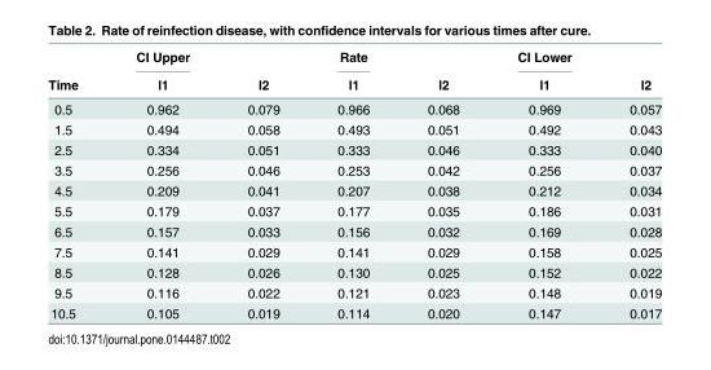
<table><thead><tr><td rowspan="2">Time</td><td rowspan="2">CI Upper l1</td><td rowspan="2">l2</td><td rowspan="2">Rate l1</td><td rowspan="2">l2</td><td rowspan="2">CI Lower l1</td><td rowspan="2">l2</td></tr><tr></tr></thead><tbody><tr><td>0.5</td><td>0.962</td><td>0.079</td><td>0.966</td><td>0.068</td><td>0.969</td><td>0.057</td></tr><tr><td>1.5</td><td>0.494</td><td>0.058</td><td>0.493</td><td>0.051</td><td>0.492</td><td>0.043</td></tr><tr><td>2.5</td><td>0.334</td><td>0.051</td><td>0.333</td><td>0.046</td><td>0.333</td><td>0.040</td></tr><tr><td>3.5</td><td>0.256</td><td>0.046</td><td>0.253</td><td>0.042</td><td>0.256</td><td>0.037</td></tr><tr><td>4.5</td><td>0.209</td><td>0.041</td><td>0.207</td><td>0.038</td><td>0.212</td><td>0.034</td></tr><tr><td>5.5</td><td>0.179</td><td>0.037</td><td>0.177</td><td>0.035</td><td>0.186</td><td>0.031</td></tr><tr><td>6.5</td><td>0.157</td><td>0.033</td><td>0.156</td><td>0.032</td><td>0.169</td><td>0.028</td></tr><tr><td>7.5</td><td>0.141</td><td>0.029</td><td>0.141</td><td>0.029</td><td>0.158</td><td>0.025</td></tr><tr><td>8.5</td><td>0.128</td><td>0.026</td><td>0.130</td><td>0.025</td><td>0.152</td><td>0.022</td></tr><tr><td>9.5</td><td>0.116</td><td>0.022</td><td>0.121</td><td>0.023</td><td>0.148</td><td>0.019</td></tr><tr><td>10.5</td><td>0.105</td><td>0.019</td><td>0.114</td><td>0.020</td><td>0.147</td><td>0.017</td></tr></tbody></table>